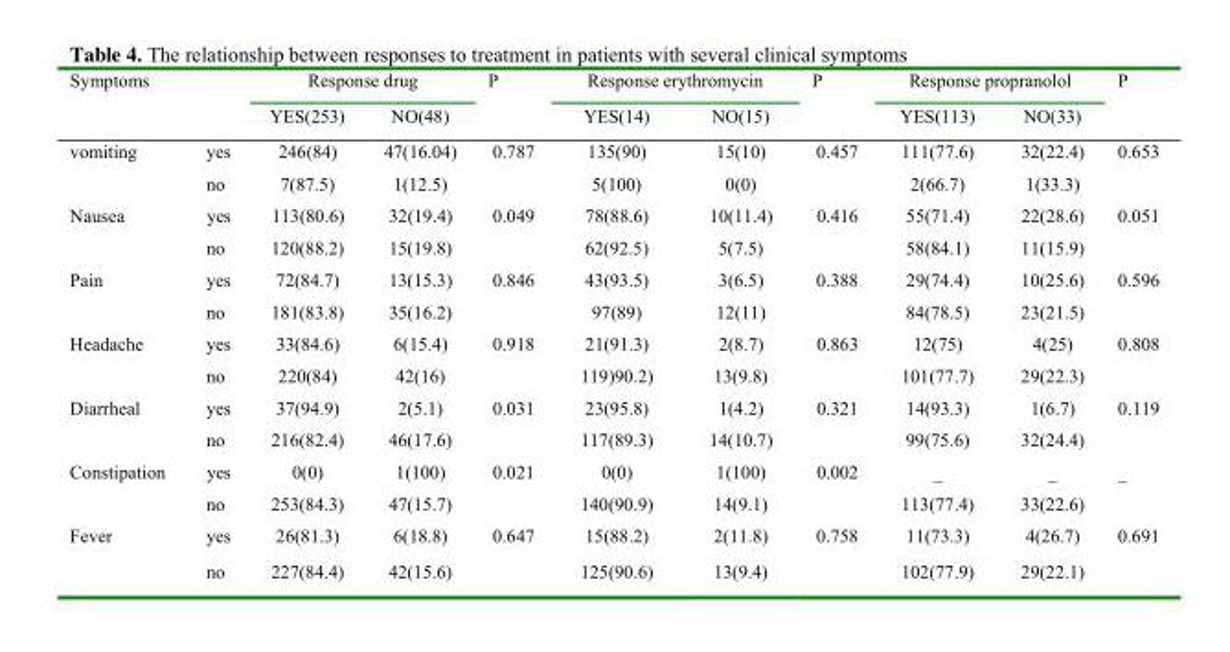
<table><thead><tr><td rowspan="2">Symptoms</td><td rowspan="2"></td><td colspan="2">Response drug</td><td rowspan="2">P</td><td colspan="2">Response erythromycin</td><td rowspan="2">P</td><td colspan="2">Response propranolol</td><td rowspan="2">P</td></tr><tr><td>YES(253)</td><td>NO(48)</td><td>YES(14)</td><td>NO(15)</td><td>YES(113)</td><td>NO(33)</td></tr></thead><tbody><tr><td rowspan="2">vomiting</td><td>yes</td><td>246(84)</td><td>47(16.04)</td><td rowspan="2">0.787</td><td>135(90)</td><td>15(10)</td><td rowspan="2">0.457</td><td>111(77.6)</td><td>32(22.4)</td><td rowspan="2">0.653</td></tr><tr><td>no</td><td>7(87.5)</td><td>1(12.5)</td><td>5(100)</td><td>0(0)</td><td>2(66.7)</td><td>1(33.3)</td></tr><tr><td rowspan="2">Nausea</td><td>yes</td><td>113(80.6)</td><td>32(19.4)</td><td rowspan="2">0.049</td><td>78(88.6)</td><td>10(11.4)</td><td rowspan="2">0.416</td><td>55(71.4)</td><td>22(28.6)</td><td rowspan="2">0.051</td></tr><tr><td>no</td><td>120(88.2)</td><td>15(19.8)</td><td>62(92.5)</td><td>5(7.5)</td><td>58(84.1)</td><td>11(15.9)</td></tr><tr><td rowspan="2">Pain</td><td>yes</td><td>72(84.7)</td><td>13(15.3)</td><td rowspan="2">0.846</td><td>43(93.5)</td><td>3(6.5)</td><td rowspan="2">0.388</td><td>29(74.4)</td><td>10(25.6)</td><td rowspan="2">0.596</td></tr><tr><td>no</td><td>181(83.8)</td><td>35(16.2)</td><td>97(89)</td><td>12(11)</td><td>84(78.5)</td><td>23(21.5)</td></tr><tr><td rowspan="2">Headache</td><td>yes</td><td>33(84.6)</td><td>6(15.4)</td><td rowspan="2">0.918</td><td>21(91.3)</td><td>2(8.7)</td><td rowspan="2">0.863</td><td>12(75)</td><td>4(25)</td><td rowspan="2">0.808</td></tr><tr><td>no</td><td>220(84)</td><td>42(16)</td><td>119)90.2)</td><td>13(9.8)</td><td>101(77.7)</td><td>29(22.3)</td></tr><tr><td rowspan="2">Diarrheal</td><td>yes</td><td>37(94.9)</td><td>2(5.1)</td><td rowspan="2">0.031</td><td>23(95.8)</td><td>1(4.2)</td><td rowspan="2">0.321</td><td>14(93.3)</td><td>1(6.7)</td><td rowspan="2">0.119</td></tr><tr><td>no</td><td>216(82.4)</td><td>46(17.6)</td><td>117(89.3)</td><td>14(10.7)</td><td>99(75.6)</td><td>32(24.4)</td></tr><tr><td rowspan="2">Constipation</td><td>yes</td><td>0(0)</td><td>1(100)</td><td rowspan="2">0.021</td><td>0(0)</td><td>1(100)</td><td rowspan="2">0.002</td><td>_</td><td>_</td><td rowspan="2">_</td></tr><tr><td>no</td><td>253(84.3)</td><td>47(15.7)</td><td>140(90.9)</td><td>14(9.1)</td><td>113(77.4)</td><td>33(22.6)</td></tr><tr><td rowspan="2">Fever</td><td>yes</td><td>26(81.3)</td><td>6(18.8)</td><td rowspan="2">0.647</td><td>15(88.2)</td><td>2(11.8)</td><td rowspan="2">0.758</td><td>11(73.3)</td><td>4(26.7)</td><td rowspan="2">0.691</td></tr><tr><td>no</td><td>227(84.4)</td><td>42(15.6)</td><td>125(90.6)</td><td>13(9.4)</td><td>102(77.9)</td><td>29(22.1)</td></tr></tbody></table>